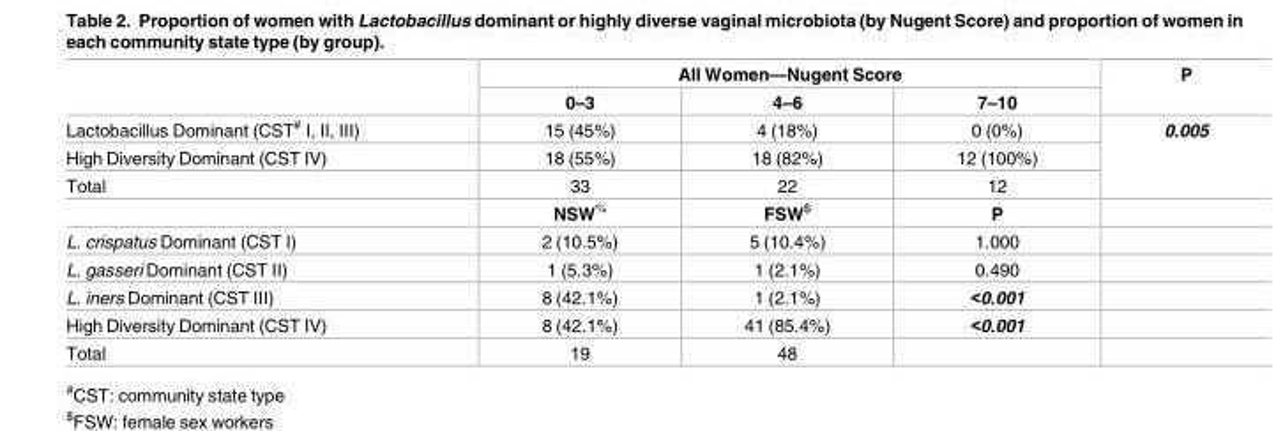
<table><thead><tr><td rowspan="2"></td><td colspan="3">All Women—Nugent Score</td><td rowspan="2">P</td></tr><tr><td>0–3</td><td>4–6</td><td>7–10</td></tr></thead><tbody><tr><td>Lactobacillus Dominant (CST<sup>#</sup> I, II, III)</td><td>15 (45%)</td><td>4 (18%)</td><td>0 (0%)</td><td rowspan="3">0.005</td></tr><tr><td>High Diversity Dominant (CST IV)</td><td>18 (55%)</td><td>18 (82%)</td><td>12 (100%)</td></tr><tr><td rowspan="2">Total</td><td>33</td><td>22</td><td>12</td></tr><tr><td>NSW<sup>%</sup></td><td>FSW<sup>$</sup></td><td>P</td><td></td></tr><tr><td>L. crispatus Dominant (CST I)</td><td>2 (10.5%)</td><td>5 (10.4%)</td><td>1.000</td><td></td></tr><tr><td>L. gasseri Dominant (CST II)</td><td>1 (5.3%)</td><td>1 (2.1%)</td><td>0.490</td><td></td></tr><tr><td>L. iners Dominant (CST III)</td><td>8 (42.1%)</td><td>1 (2.1%)</td><td>&lt;0.001</td><td></td></tr><tr><td>High Diversity Dominant (CST IV)</td><td>8 (42.1%)</td><td>41 (85.4%)</td><td>&lt;0.001</td><td></td></tr><tr><td>Total</td><td>19</td><td>48</td><td></td><td></td></tr></tbody></table>